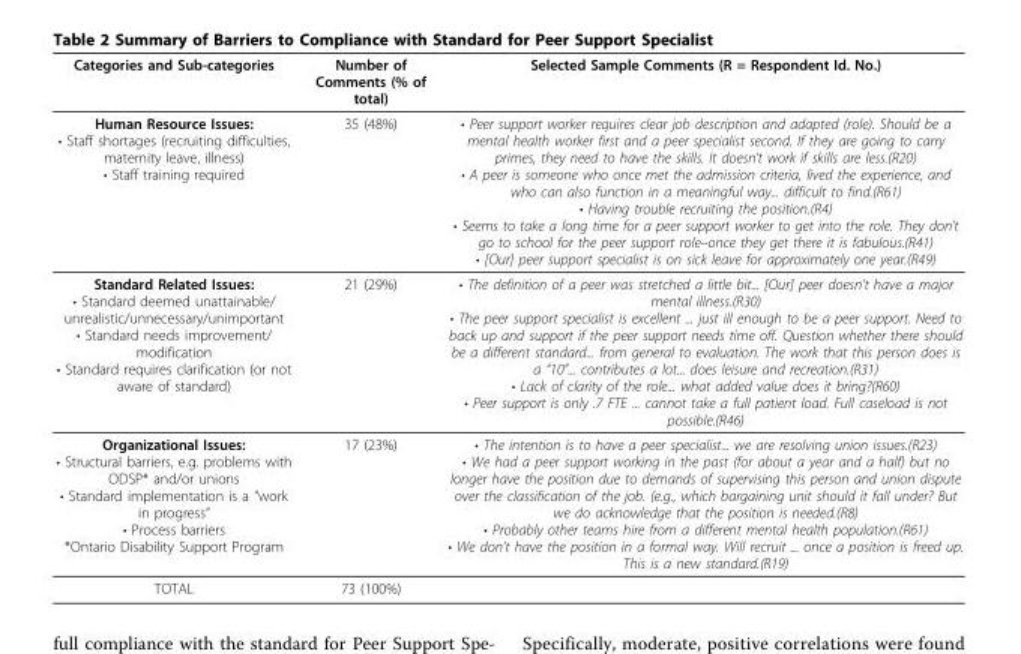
<table><thead><tr><td>Categories and Sub-categories</td><td>Number of Comments (% of total)</td><td>Selected Sample Comments (R = Respondent Id. No.)</td></tr></thead><tbody><tr><td>Human Resource Issues: • Staff shortages (recruiting difficulties, maternity leave, illness) • Staff training required</td><td>35 (48%)</td><td>• Peer support worker requires clear job description and adapted (role). Should be a mental health worker first and a peer specialist second. If they are going to carry primes, they need to have the skills. It doesn’t work if skills are less.(R20) • A peer is someone who once met the admission criteria, lived the experience, and who can also function in a meaningful way... difficult to find.(R61) • Having trouble recruiting the position.(R4) • Seems to take a long time for a peer support worker to get into the role. They don’t go to school for the peer support role–once they get there it is fabulous.(R41) • [Our] peer support specialist is on sick leave for approximately one year.(R49)</td></tr><tr><td>Standard Related Issues: • Standard deemed unattainable/ unrealistic/unnecessary/unimportant • Standard needs improvement/ modification • Standard requires clarification (or not aware of standard)</td><td>21 (29%)</td><td>• The definition of a peer was stretched a little bit... [Our] peer doesn’t have a major mental illness.(R30) • The peer support specialist is excellent ... just ill enough to be a peer support. Need to back up and support if the peer support needs time off. Question whether there should be a different standard... from general to evaluation. The work that this person does is a “10”... contributes a lot... does leisure and recreation.(R31) • Lack of clarity of the role... what added value does it bring?(R60) • Peer support is only .7 FTE ... cannot take a full patient load. Full caseload is not possible.(R46)</td></tr><tr><td>Organizational Issues: • Structural barriers, e.g. problems with ODSP* and/or unions • Standard implementation is a “work in progress” • Process barriers *Ontario Disability Support Program</td><td>17 (23%)</td><td>• The intention is to have a peer specialist... we are resolving union issues.(R23) • We had a peer support working in the past (for about a year and a half) but no longer have the position due to demands of supervising this person and union dispute over the classification of the job. (e.g., which bargaining unit should it fall under? But we do acknowledge that the position is needed.(R8) • Probably other teams hire from a different mental health population.(R61) • We don’t have the position in a formal way. Will recruit ... once a position is freed up. This is a new standard.(R19)</td></tr><tr><td>TOTAL</td><td>73 (100%)</td><td></td></tr></tbody></table>